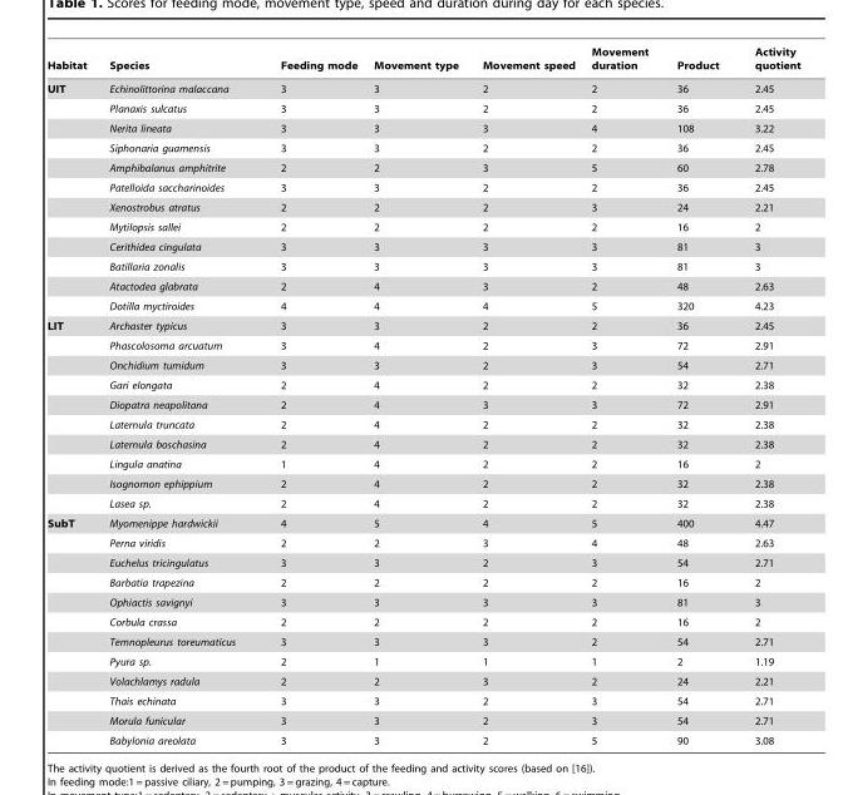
<table><thead><tr><td>Habitat</td><td>Species</td><td>Feeding mode</td><td>Movement type</td><td>Movement speed</td><td>Movement duration</td><td>Product</td><td>Activity quotient</td></tr></thead><tbody><tr><td rowspan="12">UIT</td><td>Echinolittorina malaccana</td><td>3</td><td>3</td><td>2</td><td>2</td><td>36</td><td>2.45</td></tr><tr><td>Planaxis sulcatus</td><td>3</td><td>3</td><td>2</td><td>2</td><td>36</td><td>2.45</td></tr><tr><td>Nerita lineata</td><td>3</td><td>3</td><td>3</td><td>4</td><td>108</td><td>3.22</td></tr><tr><td>Siphonaria guamensis</td><td>3</td><td>3</td><td>2</td><td>2</td><td>36</td><td>2.45</td></tr><tr><td>Amphibalanus amphitrite</td><td>2</td><td>2</td><td>3</td><td>5</td><td>60</td><td>2.78</td></tr><tr><td>Patelloida saccharinoides</td><td>3</td><td>3</td><td>2</td><td>2</td><td>36</td><td>2.45</td></tr><tr><td>Xenostrobus atratus</td><td>2</td><td>2</td><td>2</td><td>3</td><td>24</td><td>2.21</td></tr><tr><td>Mytilopsis sallei</td><td>2</td><td>2</td><td>2</td><td>2</td><td>16</td><td>2</td></tr><tr><td>Cerithidea cingulata</td><td>3</td><td>3</td><td>3</td><td>3</td><td>81</td><td>3</td></tr><tr><td>Batillaria zonalis</td><td>3</td><td>3</td><td>3</td><td>3</td><td>81</td><td>3</td></tr><tr><td>Atactodea glabrata</td><td>2</td><td>4</td><td>3</td><td>2</td><td>48</td><td>2.63</td></tr><tr><td>Dotilla myctiroides</td><td>4</td><td>4</td><td>4</td><td>5</td><td>320</td><td>4.23</td></tr><tr><td rowspan="10">LIT</td><td>Archaster typicus</td><td>3</td><td>3</td><td>2</td><td>2</td><td>36</td><td>2.45</td></tr><tr><td>Phascolosoma arcuatum</td><td>3</td><td>4</td><td>2</td><td>3</td><td>72</td><td>2.91</td></tr><tr><td>Onchidium tumidum</td><td>3</td><td>3</td><td>2</td><td>3</td><td>54</td><td>2.71</td></tr><tr><td>Gari elongata</td><td>2</td><td>4</td><td>2</td><td>2</td><td>32</td><td>2.38</td></tr><tr><td>Diopatra neapolitana</td><td>2</td><td>4</td><td>3</td><td>3</td><td>72</td><td>2.91</td></tr><tr><td>Laternula truncata</td><td>2</td><td>4</td><td>2</td><td>2</td><td>32</td><td>2.38</td></tr><tr><td>Laternula boschasina</td><td>2</td><td>4</td><td>2</td><td>2</td><td>32</td><td>2.38</td></tr><tr><td>Lingula anatina</td><td>1</td><td>4</td><td>2</td><td>2</td><td>16</td><td>2</td></tr><tr><td>Isognomon ephippium</td><td>2</td><td>4</td><td>2</td><td>2</td><td>32</td><td>2.38</td></tr><tr><td>Lasea sp.</td><td>2</td><td>4</td><td>2</td><td>2</td><td>32</td><td>2.38</td></tr><tr><td rowspan="12">SubT</td><td>Myomenippe hardwickii</td><td>4</td><td>5</td><td>4</td><td>5</td><td>400</td><td>4.47</td></tr><tr><td>Perna viridis</td><td>2</td><td>2</td><td>3</td><td>4</td><td>48</td><td>2.63</td></tr><tr><td>Euchelus tricingulatus</td><td>3</td><td>3</td><td>2</td><td>3</td><td>54</td><td>2.71</td></tr><tr><td>Barbatia trapezina</td><td>2</td><td>2</td><td>2</td><td>2</td><td>16</td><td>2</td></tr><tr><td>Ophiactis savignyi</td><td>3</td><td>3</td><td>3</td><td>3</td><td>81</td><td>3</td></tr><tr><td>Corbula crassa</td><td>2</td><td>2</td><td>2</td><td>2</td><td>16</td><td>2</td></tr><tr><td>Temnopleurus toreumaticus</td><td>3</td><td>3</td><td>3</td><td>2</td><td>54</td><td>2.71</td></tr><tr><td>Pyura sp.</td><td>2</td><td>1</td><td>1</td><td>1</td><td>2</td><td>1.19</td></tr><tr><td>Volachlamys radula</td><td>2</td><td>2</td><td>3</td><td>2</td><td>24</td><td>2.21</td></tr><tr><td>Thais echinata</td><td>3</td><td>3</td><td>2</td><td>3</td><td>54</td><td>2.71</td></tr><tr><td>Morula funicular</td><td>3</td><td>3</td><td>2</td><td>3</td><td>54</td><td>2.71</td></tr><tr><td>Babylonia areolata</td><td>3</td><td>3</td><td>2</td><td>5</td><td>90</td><td>3.08</td></tr></tbody></table>